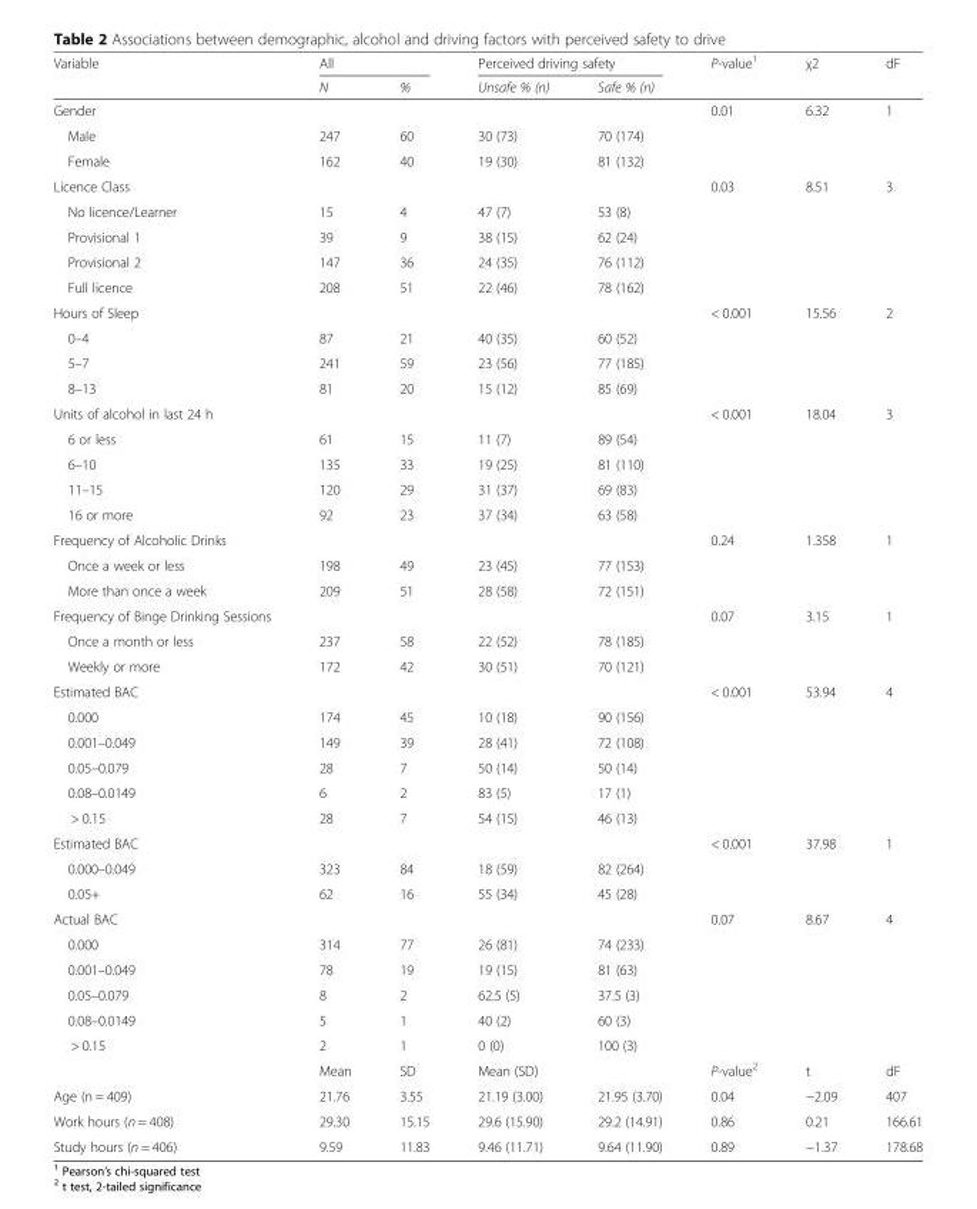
<table><thead><tr><td rowspan="2">Variable</td><td colspan="2">All</td><td colspan="2">Perceived driving safety</td><td rowspan="2">P-value<sup>1</sup></td><td rowspan="2">χ2</td><td rowspan="2">dF</td></tr><tr><td>N</td><td>%</td><td>Unsafe % (n)</td><td>Safe % (n)</td></tr></thead><tbody><tr><td>Gender</td><td></td><td></td><td></td><td></td><td>0.01</td><td>6.32</td><td>1</td></tr><tr><td>Male</td><td>247</td><td>60</td><td>30 (73)</td><td>70 (174)</td><td></td><td></td><td></td></tr><tr><td>Female</td><td>162</td><td>40</td><td>19 (30)</td><td>81 (132)</td><td></td><td></td><td></td></tr><tr><td>Licence Class</td><td></td><td></td><td></td><td></td><td>0.03</td><td>8.51</td><td>3</td></tr><tr><td>No licence/Learner</td><td>15</td><td>4</td><td>47 (7)</td><td>53 (8)</td><td></td><td></td><td></td></tr><tr><td>Provisional 1</td><td>39</td><td>9</td><td>38 (15)</td><td>62 (24)</td><td></td><td></td><td></td></tr><tr><td>Provisional 2</td><td>147</td><td>36</td><td>24 (35)</td><td>76 (112)</td><td></td><td></td><td></td></tr><tr><td>Full licence</td><td>208</td><td>51</td><td>22 (46)</td><td>78 (162)</td><td></td><td></td><td></td></tr><tr><td>Hours of Sleep</td><td></td><td></td><td></td><td></td><td>&lt; 0.001</td><td>15.56</td><td>2</td></tr><tr><td>0–4</td><td>87</td><td>21</td><td>40 (35)</td><td>60 (52)</td><td></td><td></td><td></td></tr><tr><td>5–7</td><td>241</td><td>59</td><td>23 (56)</td><td>77 (185)</td><td></td><td></td><td></td></tr><tr><td>8–13</td><td>81</td><td>20</td><td>15 (12)</td><td>85 (69)</td><td></td><td></td><td></td></tr><tr><td>Units of alcohol in last 24 h</td><td></td><td></td><td></td><td></td><td>&lt; 0.001</td><td>18.04</td><td>3</td></tr><tr><td>6 or less</td><td>61</td><td>15</td><td>11 (7)</td><td>89 (54)</td><td></td><td></td><td></td></tr><tr><td>6–10</td><td>135</td><td>33</td><td>19 (25)</td><td>81 (110)</td><td></td><td></td><td></td></tr><tr><td>11–15</td><td>120</td><td>29</td><td>31 (37)</td><td>69 (83)</td><td></td><td></td><td></td></tr><tr><td>16 or more</td><td>92</td><td>23</td><td>37 (34)</td><td>63 (58)</td><td></td><td></td><td></td></tr><tr><td>Frequency of Alcoholic Drinks</td><td></td><td></td><td></td><td></td><td>0.24</td><td>1.358</td><td>1</td></tr><tr><td>Once a week or less</td><td>198</td><td>49</td><td>23 (45)</td><td>77 (153)</td><td></td><td></td><td></td></tr><tr><td>More than once a week</td><td>209</td><td>51</td><td>28 (58)</td><td>72 (151)</td><td></td><td></td><td></td></tr><tr><td>Frequency of Binge Drinking Sessions</td><td></td><td></td><td></td><td></td><td>0.07</td><td>3.15</td><td>1</td></tr><tr><td>Once a month or less</td><td>237</td><td>58</td><td>22 (52)</td><td>78 (185)</td><td></td><td></td><td></td></tr><tr><td>Weekly or more</td><td>172</td><td>42</td><td>30 (51)</td><td>70 (121)</td><td></td><td></td><td></td></tr><tr><td>Estimated BAC</td><td></td><td></td><td></td><td></td><td>&lt; 0.001</td><td>53.94</td><td>4</td></tr><tr><td>0.000</td><td>174</td><td>45</td><td>10 (18)</td><td>90 (156)</td><td></td><td></td><td></td></tr><tr><td>0.001–0.049</td><td>149</td><td>39</td><td>28 (41)</td><td>72 (108)</td><td></td><td></td><td></td></tr><tr><td>0.05–0.079</td><td>28</td><td>7</td><td>50 (14)</td><td>50 (14)</td><td></td><td></td><td></td></tr><tr><td>0.08–0.0149</td><td>6</td><td>2</td><td>83 (5)</td><td>17 (1)</td><td></td><td></td><td></td></tr><tr><td>&gt; 0.15</td><td>28</td><td>7</td><td>54 (15)</td><td>46 (13)</td><td></td><td></td><td></td></tr><tr><td>Estimated BAC</td><td></td><td></td><td></td><td></td><td>&lt; 0.001</td><td>37.98</td><td>1</td></tr><tr><td>0.000–0.049</td><td>323</td><td>84</td><td>18 (59)</td><td>82 (264)</td><td></td><td></td><td></td></tr><tr><td>0.05+</td><td>62</td><td>16</td><td>55 (34)</td><td>45 (28)</td><td></td><td></td><td></td></tr><tr><td>Actual BAC</td><td></td><td></td><td></td><td></td><td>0.07</td><td>8.67</td><td>4</td></tr><tr><td>0.000</td><td>314</td><td>77</td><td>26 (81)</td><td>74 (233)</td><td></td><td></td><td></td></tr><tr><td>0.001–0.049</td><td>78</td><td>19</td><td>19 (15)</td><td>81 (63)</td><td></td><td></td><td></td></tr><tr><td>0.05–0.079</td><td>8</td><td>2</td><td>62.5 (5)</td><td>37.5 (3)</td><td></td><td></td><td></td></tr><tr><td>0.08–0.0149</td><td>5</td><td>1</td><td>40 (2)</td><td>60 (3)</td><td></td><td></td><td></td></tr><tr><td rowspan="2">&gt; 0.15</td><td>2</td><td>1</td><td>0 (0)</td><td>100 (3)</td><td></td><td></td><td></td></tr><tr><td>Mean</td><td>SD</td><td colspan="2">Mean (SD)</td><td>P-value<sup>2</sup></td><td>t</td><td>dF</td></tr><tr><td>Age (n = 409)</td><td>21.76</td><td>3.55</td><td>21.19 (3.00)</td><td>21.95 (3.70)</td><td>0.04</td><td>−2.09</td><td>407</td></tr><tr><td>Work hours (n = 408)</td><td>29.30</td><td>15.15</td><td>29.6 (15.90)</td><td>29.2 (14.91)</td><td>0.86</td><td>0.21</td><td>166.61</td></tr><tr><td>Study hours (n = 406)</td><td>9.59</td><td>11.83</td><td>9.46 (11.71)</td><td>9.64 (11.90)</td><td>0.89</td><td>−1.37</td><td>178.68</td></tr></tbody></table>